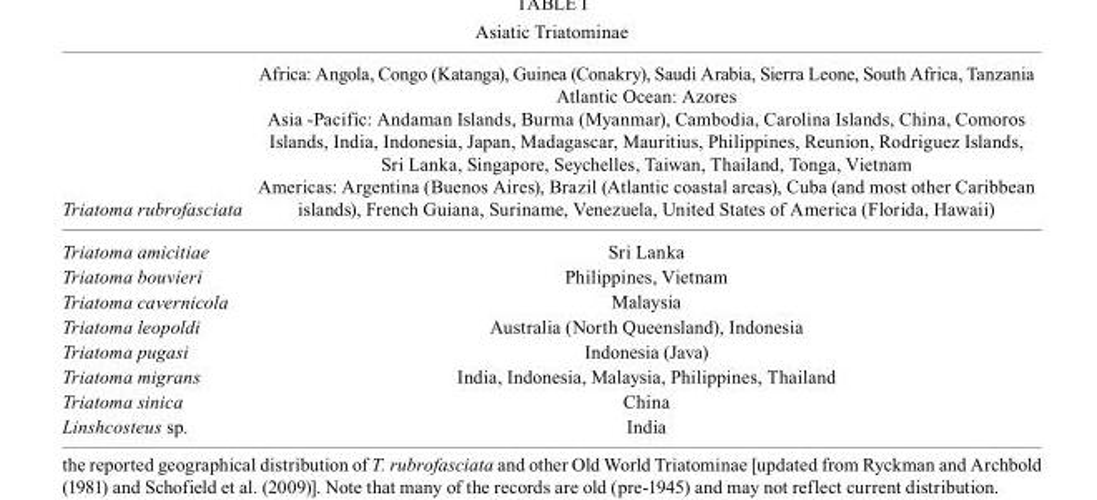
<table><tbody><tr><td>Triatoma rubrofasciata</td><td>Africa: Angola, Congo (Katanga), Guinea (Conakry), Saudi Arabia, Sierra Leone, South Africa, Tanzania Atlantic Ocean: Azores Asia -Pacific: Andaman Islands, Burma (Myanmar), Cambodia, Carolina Islands, China, Comoros Islands, India, Indonesia, Japan, Madagascar, Mauritius, Philippines, Reunion, Rodriguez Islands, Sri Lanka, Singapore, Seychelles, Taiwan, Thailand, Tonga, Vietnam Americas: Argentina (Buenos Aires), Brazil (Atlantic coastal areas), Cuba (and most other Caribbean islands), French Guiana, Suriname, Venezuela, United States of America (Florida, Hawaii)</td></tr><tr><td>Triatoma amicitiae</td><td>Sri Lanka</td></tr><tr><td>Triatoma bouvieri</td><td>Philippines, Vietnam</td></tr><tr><td>Triatoma cavernicola</td><td>Malaysia</td></tr><tr><td>Triatoma leopoldi</td><td>Australia (North Queensland), Indonesia</td></tr><tr><td>Triatoma pugasi</td><td>Indonesia (Java)</td></tr><tr><td>Triatoma migrans</td><td>India, Indonesia, Malaysia, Philippines, Thailand</td></tr><tr><td>Triatoma sinica</td><td>China</td></tr><tr><td>Linshcosteus sp.</td><td>India</td></tr></tbody></table>